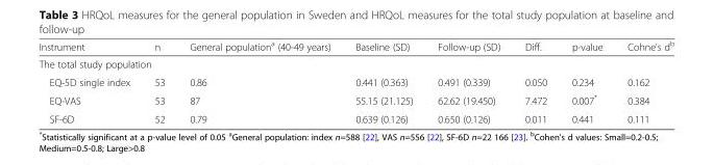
<table><thead><tr><td>Instrument</td><td>n</td><td>General population<sup>a</sup> (40-49 years)</td><td>Baseline (SD)</td><td>Follow-up (SD)</td><td>Diff.</td><td>p-value</td><td>Cohne&#x27;s d<sup>b</sup></td></tr></thead><tbody><tr><td colspan="8">The total study population</td></tr><tr><td>EQ-5D single index</td><td>53</td><td>0.86</td><td>0.441 (0.363)</td><td>0.491 (0.339)</td><td>0.050</td><td>0.234</td><td>0.162</td></tr><tr><td>EQ-VAS</td><td>53</td><td>87</td><td>55.15 (21.125)</td><td>62.62 (19.450)</td><td>7.472</td><td>0.007*</td><td>0.384</td></tr><tr><td>SF-6D</td><td>52</td><td>0.79</td><td>0.639 (0.126)</td><td>0.650 (0.126)</td><td>0.011</td><td>0.441</td><td>0.111</td></tr></tbody></table>